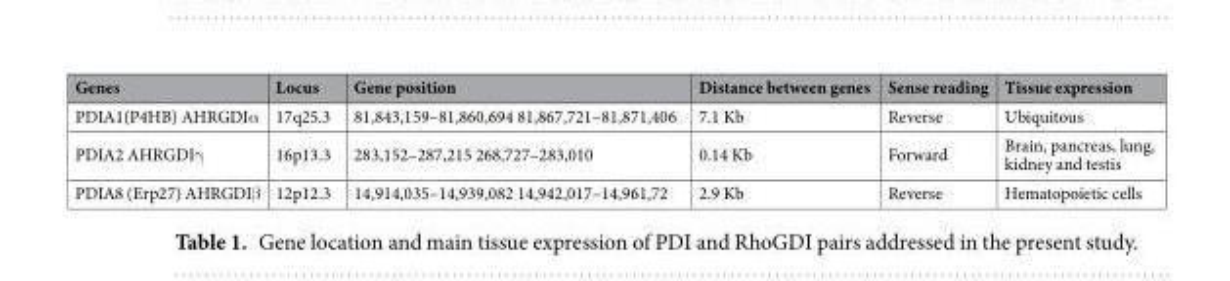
<table><thead><tr><td>Genes</td><td>Locus</td><td>Gene position</td><td>Distance between genes</td><td>Sense reading</td><td>Tissue expression</td></tr></thead><tbody><tr><td>PDIA1(P4HB) AHRGDIα</td><td>17q25.3</td><td>81,843,159–81,860,694 81,867,721–81,871,406</td><td>7.1 Kb</td><td>Reverse</td><td>Ubiquitous</td></tr><tr><td>PDIA2 AHRGDIγ</td><td>16p13.3</td><td>283,152–287,215 268,727–283,010</td><td>0.14 Kb</td><td>Forward</td><td>Brain, pancreas, lung, kidney and testis</td></tr><tr><td>PDIA8 (Erp27) AHRGDIβ</td><td>12p12.3</td><td>14,914,035–14,939,082 14,942,017–14,961,72</td><td>2.9 Kb</td><td>Reverse</td><td>Hematopoietic cells</td></tr></tbody></table>